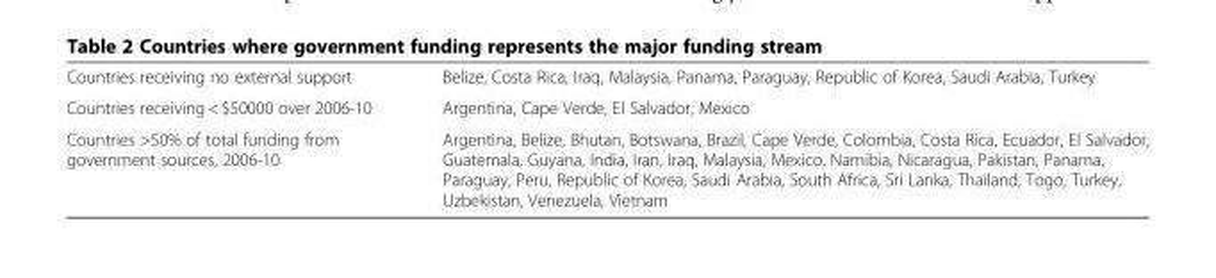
<table><tbody><tr><td>Countries receiving no external support</td><td>Belize, Costa Rica, Iraq, Malaysia, Panama, Paraguay, Republic of Korea, Saudi Arabia, Turkey</td></tr><tr><td>Countries receiving &lt; $50000 over 2006-10</td><td>Argentina, Cape Verde, El Salvador, Mexico</td></tr><tr><td>Countries &gt;50% of total funding from government sources, 2006-10</td><td>Argentina, Belize, Bhutan, Botswana, Brazil, Cape Verde, Colombia, Costa Rica, Ecuador, El Salvador, Guatemala, Guyana, India, Iran, Iraq, Malaysia, Mexico, Namibia, Nicaragua, Pakistan, Panama, Paraguay, Peru, Republic of Korea, Saudi Arabia, South Africa, Sri Lanka, Thailand, Togo, Turkey, Uzbekistan, Venezuela, Vietnam</td></tr></tbody></table>